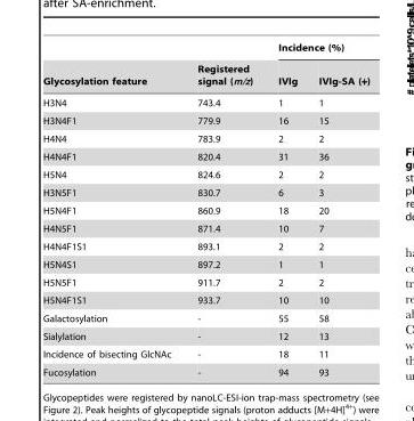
<table><thead><tr><td rowspan="2">Glycosylation feature</td><td rowspan="2">Registered signal (m/z)</td><td colspan="2">Incidence (%)</td></tr><tr><td>IVIg</td><td>IVIg-SA (+)</td></tr></thead><tbody><tr><td>H3N4</td><td>743.4</td><td>1</td><td>1</td></tr><tr><td>H3N4F1</td><td>779.9</td><td>16</td><td>15</td></tr><tr><td>H4N4</td><td>783.9</td><td>2</td><td>2</td></tr><tr><td>H4N4F1</td><td>820.4</td><td>31</td><td>36</td></tr><tr><td>H5N4</td><td>824.6</td><td>2</td><td>2</td></tr><tr><td>H3N5F1</td><td>830.7</td><td>6</td><td>3</td></tr><tr><td>H5N4F1</td><td>860.9</td><td>18</td><td>20</td></tr><tr><td>H4N5F1</td><td>871.4</td><td>10</td><td>7</td></tr><tr><td>H4N4F1S1</td><td>893.1</td><td>2</td><td>2</td></tr><tr><td>H5N4S1</td><td>897.2</td><td>1</td><td>1</td></tr><tr><td>H5N5F1</td><td>911.7</td><td>2</td><td>2</td></tr><tr><td>H5N4F1S1</td><td>933.7</td><td>10</td><td>10</td></tr><tr><td>Galactosylation</td><td>-</td><td>55</td><td>58</td></tr><tr><td>Sialylation</td><td>-</td><td>12</td><td>13</td></tr><tr><td>Incidence of bisecting GlcNAc</td><td>-</td><td>18</td><td>11</td></tr><tr><td>Fucosylation</td><td>-</td><td>94</td><td>93</td></tr></tbody></table>